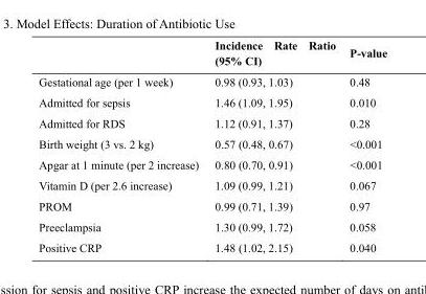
<table><thead><tr><td></td><td>Incidence Rate Ratio (95% CI)</td><td>P-value</td></tr></thead><tbody><tr><td>Gestational age (per 1 week)</td><td>0.98 (0.93, 1.03)</td><td>0.48</td></tr><tr><td>Admitted for sepsis</td><td>1.46 (1.09, 1.95)</td><td>0.010</td></tr><tr><td>Admitted for RDS</td><td>1.12 (0.91, 1.37)</td><td>0.28</td></tr><tr><td>Birth weight (3 vs. 2 kg)</td><td>0.57 (0.48, 0.67)</td><td>&lt;0.001</td></tr><tr><td>Apgar at 1 minute (per 2 increase)</td><td>0.80 (0.70, 0.91)</td><td>&lt;0.001</td></tr><tr><td>Vitamin D (per 2.6 increase)</td><td>1.09 (0.99, 1.21)</td><td>0.067</td></tr><tr><td>PROM</td><td>0.99 (0.71, 1.39)</td><td>0.97</td></tr><tr><td>Preeclampsia</td><td>1.30 (0.99, 1.72)</td><td>0.058</td></tr><tr><td>Positive CRP</td><td>1.48 (1.02, 2.15)</td><td>0.040</td></tr></tbody></table>